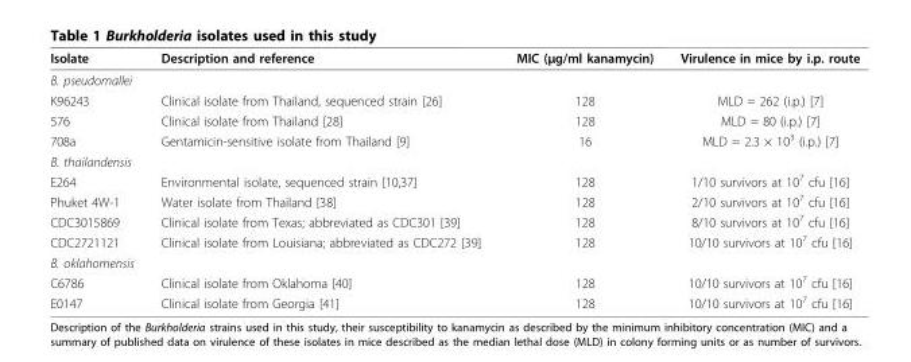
<table><thead><tr><td>Isolate</td><td>Description and reference</td><td>MIC (μg/ml kanamycin)</td><td>Virulence in mice by i.p. route</td></tr></thead><tbody><tr><td colspan="4">B. pseudomallei</td></tr><tr><td>K96243</td><td>Clinical isolate from Thailand, sequenced strain [26]</td><td>128</td><td>MLD = 262 (i.p.) [7]</td></tr><tr><td>576</td><td>Clinical isolate from Thailand [28]</td><td>128</td><td>MLD = 80 (i.p.) [7]</td></tr><tr><td>708a</td><td>Gentamicin-sensitive isolate from Thailand [9]</td><td>16</td><td>MLD = 2.3 × 10<sup>3</sup> (i.p.) [7]</td></tr><tr><td colspan="4">B. thailandensis</td></tr><tr><td>E264</td><td>Environmental isolate, sequenced strain [10,37]</td><td>128</td><td>1/10 survivors at 10<sup>7</sup> cfu [16]</td></tr><tr><td>Phuket 4W-1</td><td>Water isolate from Thailand [38]</td><td>128</td><td>2/10 survivors at 10<sup>7</sup> cfu [16]</td></tr><tr><td>CDC3015869</td><td>Clinical isolate from Texas; abbreviated as CDC301 [39]</td><td>128</td><td>8/10 survivors at 10<sup>7</sup> cfu [16]</td></tr><tr><td>CDC2721121</td><td>Clinical isolate from Louisiana; abbreviated as CDC272 [39]</td><td>128</td><td>10/10 survivors at 10<sup>7</sup> cfu [16]</td></tr><tr><td colspan="4">B. oklahomensis</td></tr><tr><td>C6786</td><td>Clinical isolate from Oklahoma [40]</td><td>128</td><td>10/10 survivors at 10<sup>7</sup> cfu [16]</td></tr><tr><td>E0147</td><td>Clinical isolate from Georgia [41]</td><td>128</td><td>10/10 survivors at 10<sup>7</sup> cfu [16]</td></tr></tbody></table>